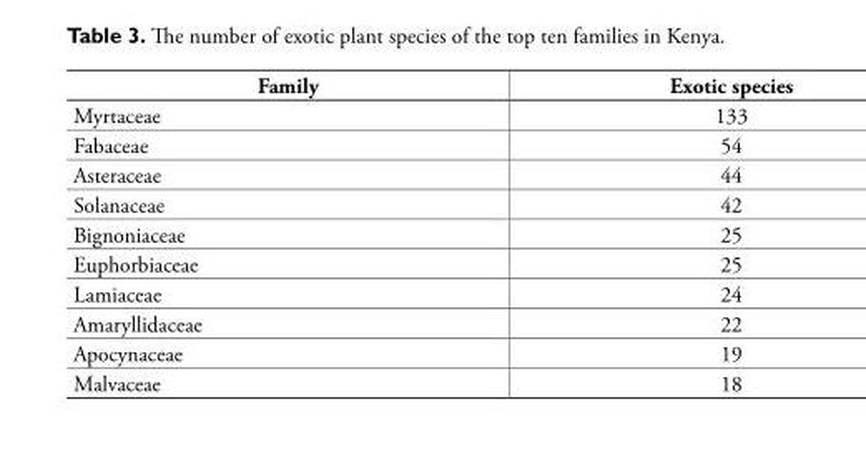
<table><thead><tr><td>Family</td><td>Exotic species</td></tr></thead><tbody><tr><td>Myrtaceae</td><td>133</td></tr><tr><td>Fabaceae</td><td>54</td></tr><tr><td>Asteraceae</td><td>44</td></tr><tr><td>Solanaceae</td><td>42</td></tr><tr><td>Bignoniaceae</td><td>25</td></tr><tr><td>Euphorbiaceae</td><td>25</td></tr><tr><td>Lamiaceae</td><td>24</td></tr><tr><td>Amaryllidaceae</td><td>22</td></tr><tr><td>Apocynaceae</td><td>19</td></tr><tr><td>Malvaceae</td><td>18</td></tr></tbody></table>